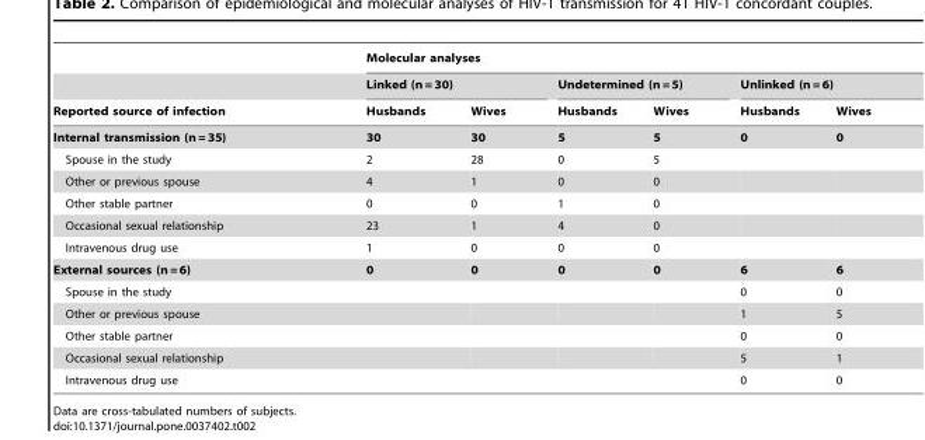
<table><thead><tr><td rowspan="3">Reported source of infection</td><td colspan="6">Molecular analyses</td></tr><tr><td colspan="2">Linked (n = 30)</td><td colspan="2">Undetermined (n = 5)</td><td colspan="2">Unlinked (n = 6)</td></tr><tr><td>Husbands</td><td>Wives</td><td>Husbands</td><td>Wives</td><td>Husbands</td><td>Wives</td></tr></thead><tbody><tr><td>Internal transmission (n = 35)</td><td>30</td><td>30</td><td>5</td><td>5</td><td>0</td><td>0</td></tr><tr><td>Spouse in the study</td><td>2</td><td>28</td><td>0</td><td>5</td><td></td><td></td></tr><tr><td>Other or previous spouse</td><td>4</td><td>1</td><td>0</td><td>0</td><td></td><td></td></tr><tr><td>Other stable partner</td><td>0</td><td>0</td><td>1</td><td>0</td><td></td><td></td></tr><tr><td>Occasional sexual relationship</td><td>23</td><td>1</td><td>4</td><td>0</td><td></td><td></td></tr><tr><td>Intravenous drug use</td><td>1</td><td>0</td><td>0</td><td>0</td><td></td><td></td></tr><tr><td>External sources (n = 6)</td><td>0</td><td>0</td><td>0</td><td>0</td><td>6</td><td>6</td></tr><tr><td>Spouse in the study</td><td></td><td></td><td></td><td></td><td>0</td><td>0</td></tr><tr><td>Other or previous spouse</td><td></td><td></td><td></td><td></td><td>1</td><td>5</td></tr><tr><td>Other stable partner</td><td></td><td></td><td></td><td></td><td>0</td><td>0</td></tr><tr><td>Occasional sexual relationship</td><td></td><td></td><td></td><td></td><td>5</td><td>1</td></tr><tr><td>Intravenous drug use</td><td></td><td></td><td></td><td></td><td>0</td><td>0</td></tr></tbody></table>